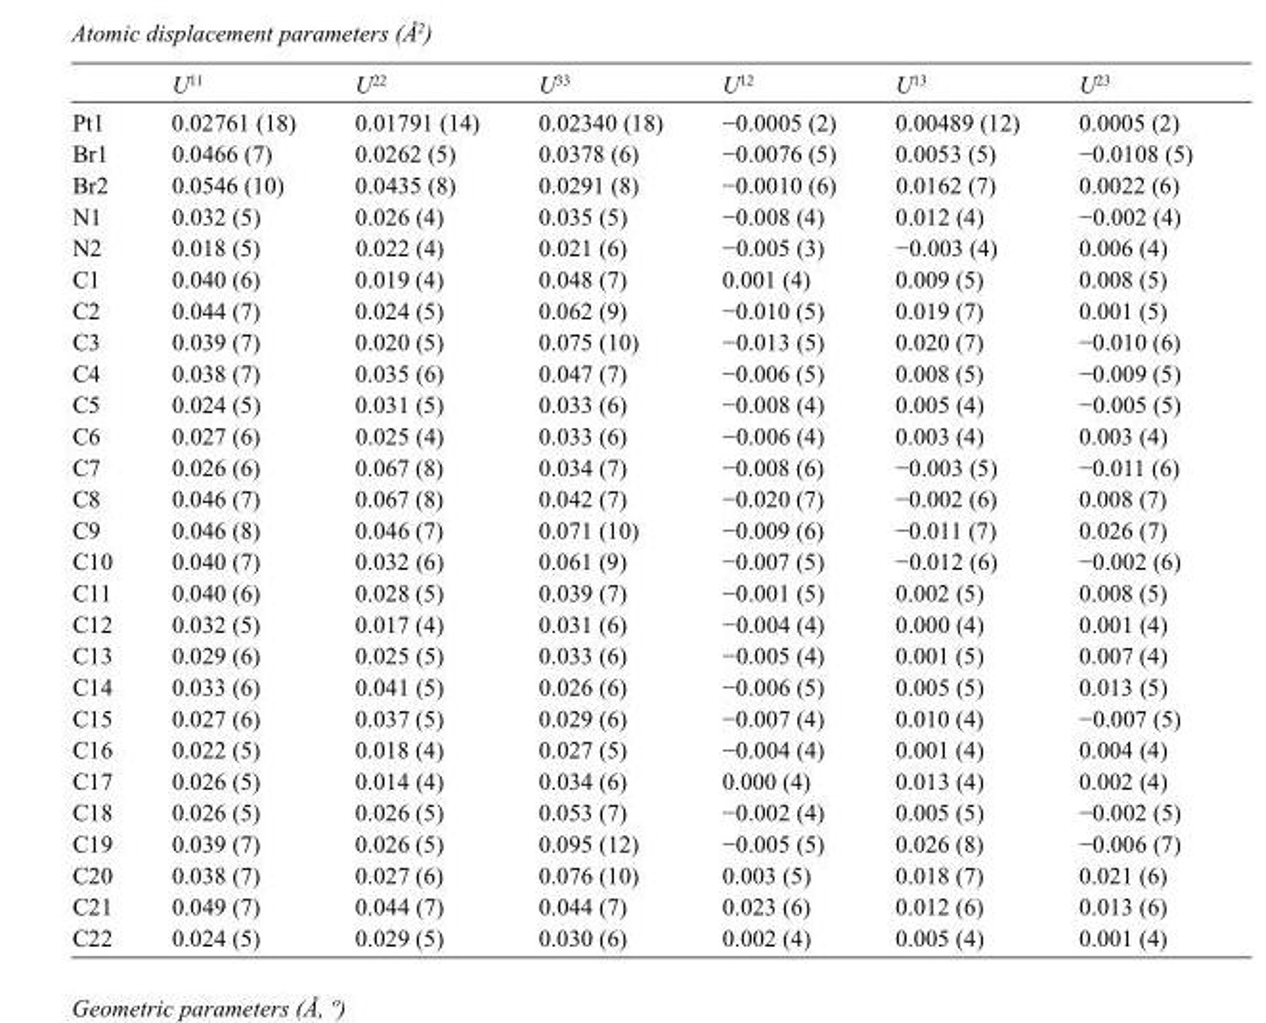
<table><thead><tr><td></td><td>U<sup>11</sup></td><td>U<sup>22</sup></td><td>U<sup>33</sup></td><td>U<sup>12</sup></td><td>U<sup>13</sup></td><td>U<sup>23</sup></td></tr></thead><tbody><tr><td>Pt1</td><td>0.02761 (18)</td><td>0.01791 (14)</td><td>0.02340 (18)</td><td>−0.0005 (2)</td><td>0.00489 (12)</td><td>0.0005 (2)</td></tr><tr><td>Br1</td><td>0.0466 (7)</td><td>0.0262 (5)</td><td>0.0378 (6)</td><td>−0.0076 (5)</td><td>0.0053 (5)</td><td>−0.0108 (5)</td></tr><tr><td>Br2</td><td>0.0546 (10)</td><td>0.0435 (8)</td><td>0.0291 (8)</td><td>−0.0010 (6)</td><td>0.0162 (7)</td><td>0.0022 (6)</td></tr><tr><td>N1</td><td>0.032 (5)</td><td>0.026 (4)</td><td>0.035 (5)</td><td>−0.008 (4)</td><td>0.012 (4)</td><td>−0.002 (4)</td></tr><tr><td>N2</td><td>0.018 (5)</td><td>0.022 (4)</td><td>0.021 (6)</td><td>−0.005 (3)</td><td>−0.003 (4)</td><td>0.006 (4)</td></tr><tr><td>C1</td><td>0.040 (6)</td><td>0.019 (4)</td><td>0.048 (7)</td><td>0.001 (4)</td><td>0.009 (5)</td><td>0.008 (5)</td></tr><tr><td>C2</td><td>0.044 (7)</td><td>0.024 (5)</td><td>0.062 (9)</td><td>−0.010 (5)</td><td>0.019 (7)</td><td>0.001 (5)</td></tr><tr><td>C3</td><td>0.039 (7)</td><td>0.020 (5)</td><td>0.075 (10)</td><td>−0.013 (5)</td><td>0.020 (7)</td><td>−0.010 (6)</td></tr><tr><td>C4</td><td>0.038 (7)</td><td>0.035 (6)</td><td>0.047 (7)</td><td>−0.006 (5)</td><td>0.008 (5)</td><td>−0.009 (5)</td></tr><tr><td>C5</td><td>0.024 (5)</td><td>0.031 (5)</td><td>0.033 (6)</td><td>−0.008 (4)</td><td>0.005 (4)</td><td>−0.005 (5)</td></tr><tr><td>C6</td><td>0.027 (6)</td><td>0.025 (4)</td><td>0.033 (6)</td><td>−0.006 (4)</td><td>0.003 (4)</td><td>0.003 (4)</td></tr><tr><td>C7</td><td>0.026 (6)</td><td>0.067 (8)</td><td>0.034 (7)</td><td>−0.008 (6)</td><td>−0.003 (5)</td><td>−0.011 (6)</td></tr><tr><td>C8</td><td>0.046 (7)</td><td>0.067 (8)</td><td>0.042 (7)</td><td>−0.020 (7)</td><td>−0.002 (6)</td><td>0.008 (7)</td></tr><tr><td>C9</td><td>0.046 (8)</td><td>0.046 (7)</td><td>0.071 (10)</td><td>−0.009 (6)</td><td>−0.011 (7)</td><td>0.026 (7)</td></tr><tr><td>C10</td><td>0.040 (7)</td><td>0.032 (6)</td><td>0.061 (9)</td><td>−0.007 (5)</td><td>−0.012 (6)</td><td>−0.002 (6)</td></tr><tr><td>C11</td><td>0.040 (6)</td><td>0.028 (5)</td><td>0.039 (7)</td><td>−0.001 (5)</td><td>0.002 (5)</td><td>0.008 (5)</td></tr><tr><td>C12</td><td>0.032 (5)</td><td>0.017 (4)</td><td>0.031 (6)</td><td>−0.004 (4)</td><td>0.000 (4)</td><td>0.001 (4)</td></tr><tr><td>C13</td><td>0.029 (6)</td><td>0.025 (5)</td><td>0.033 (6)</td><td>−0.005 (4)</td><td>0.001 (5)</td><td>0.007 (4)</td></tr><tr><td>C14</td><td>0.033 (6)</td><td>0.041 (5)</td><td>0.026 (6)</td><td>−0.006 (5)</td><td>0.005 (5)</td><td>0.013 (5)</td></tr><tr><td>C15</td><td>0.027 (6)</td><td>0.037 (5)</td><td>0.029 (6)</td><td>−0.007 (4)</td><td>0.010 (4)</td><td>−0.007 (5)</td></tr><tr><td>C16</td><td>0.022 (5)</td><td>0.018 (4)</td><td>0.027 (5)</td><td>−0.004 (4)</td><td>0.001 (4)</td><td>0.004 (4)</td></tr><tr><td>C17</td><td>0.026 (5)</td><td>0.014 (4)</td><td>0.034 (6)</td><td>0.000 (4)</td><td>0.013 (4)</td><td>0.002 (4)</td></tr><tr><td>C18</td><td>0.026 (5)</td><td>0.026 (5)</td><td>0.053 (7)</td><td>−0.002 (4)</td><td>0.005 (5)</td><td>−0.002 (5)</td></tr><tr><td>C19</td><td>0.039 (7)</td><td>0.026 (5)</td><td>0.095 (12)</td><td>−0.005 (5)</td><td>0.026 (8)</td><td>−0.006 (7)</td></tr><tr><td>C20</td><td>0.038 (7)</td><td>0.027 (6)</td><td>0.076 (10)</td><td>0.003 (5)</td><td>0.018 (7)</td><td>0.021 (6)</td></tr><tr><td>C21</td><td>0.049 (7)</td><td>0.044 (7)</td><td>0.044 (7)</td><td>0.023 (6)</td><td>0.012 (6)</td><td>0.013 (6)</td></tr><tr><td>C22</td><td>0.024 (5)</td><td>0.029 (5)</td><td>0.030 (6)</td><td>0.002 (4)</td><td>0.005 (4)</td><td>0.001 (4)</td></tr></tbody></table>